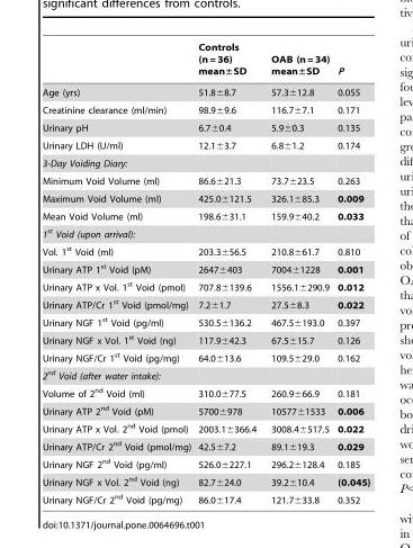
<table><thead><tr><td></td><td>Controls (n = 36) mean±SD</td><td>OAB (n = 34) mean±SD</td><td>P</td></tr></thead><tbody><tr><td>Age (yrs)</td><td>51.8±8.7</td><td>57.3±12.8</td><td>0.055</td></tr><tr><td>Creatinine clearance (ml/min)</td><td>98.9±9.6</td><td>116.7±7.1</td><td>0.171</td></tr><tr><td>Urinary pH</td><td>6.7±0.4</td><td>5.9±0.3</td><td>0.135</td></tr><tr><td>Urinary LDH (U/ml)</td><td>12.1±3.7</td><td>6.8±1.2</td><td>0.174</td></tr><tr><td colspan="4">3-Day Voiding Diary:</td></tr><tr><td>Minimum Void Volume (ml)</td><td>86.6±21.3</td><td>73.7±23.5</td><td>0.263</td></tr><tr><td>Maximum Void Volume (ml)</td><td>425.0±121.5</td><td>326.1±85.3</td><td>0.009</td></tr><tr><td>Mean Void Volume (ml)</td><td>198.6±31.1</td><td>159.9±40.2</td><td>0.033</td></tr><tr><td colspan="4">1<sup>st</sup> Void (upon arrival):</td></tr><tr><td>Vol. 1<sup>st</sup> Void (ml)</td><td>203.3±56.5</td><td>210.8±61.7</td><td>0.810</td></tr><tr><td>Urinary ATP 1<sup>st</sup> Void (pM)</td><td>2647±403</td><td>7004±1228</td><td>0.001</td></tr><tr><td>Urinary ATP x Vol. 1<sup>st</sup> Void (pmol)</td><td>707.8±139.6</td><td>1556.1±290.9</td><td>0.012</td></tr><tr><td>Urinary ATP/Cr 1<sup>st</sup> Void (pmol/mg)</td><td>7.2±1.7</td><td>27.5±8.3</td><td>0.022</td></tr><tr><td>Urinary NGF 1<sup>st</sup> Void (pg/ml)</td><td>530.5±136.2</td><td>467.5±193.0</td><td>0.397</td></tr><tr><td>Urinary NGF x Vol. 1<sup>st</sup> Void (ng)</td><td>117.9±42.3</td><td>67.5±15.7</td><td>0.126</td></tr><tr><td>Urinary NGF/Cr 1<sup>st</sup> Void (pg/mg)</td><td>64.0±13.6</td><td>109.5±29.0</td><td>0.162</td></tr><tr><td colspan="4">2<sup>nd</sup> Void (after water intake):</td></tr><tr><td>Volume of 2<sup>nd</sup> Void (ml)</td><td>310.0±77.5</td><td>260.9±66.9</td><td>0.181</td></tr><tr><td>Urinary ATP 2<sup>nd</sup> Void (pM)</td><td>5700±978</td><td>10577±1533</td><td>0.006</td></tr><tr><td>Urinary ATP x Vol. 2<sup>nd</sup> Void (pmol)</td><td>2003.1±366.4</td><td>3008.4±517.5</td><td>0.022</td></tr><tr><td>Urinary ATP/Cr 2<sup>nd</sup> Void (pmol/mg)</td><td>42.5±7.2</td><td>89.1±19.3</td><td>0.029</td></tr><tr><td>Urinary NGF 2<sup>nd</sup> Void (pg/ml)</td><td>526.0±227.1</td><td>296.2±128.4</td><td>0.185</td></tr><tr><td>Urinary NGF x Vol. 2<sup>nd</sup> Void (ng)</td><td>82.7±24.0</td><td>39.2±10.4</td><td>(0.045)</td></tr><tr><td>Urinary NGF/Cr 2<sup>nd</sup> Void (pg/mg)</td><td>86.0±17.4</td><td>121.7±33.8</td><td>0.352</td></tr></tbody></table>